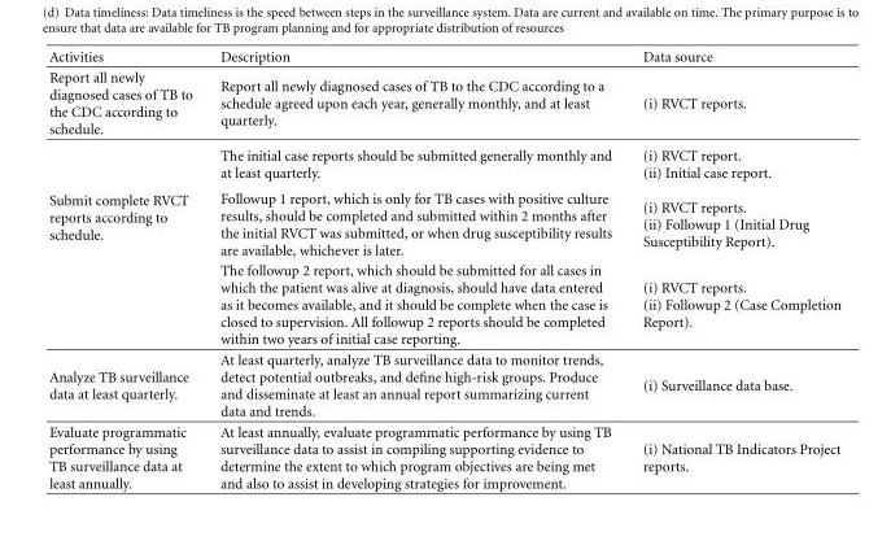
<table><thead><tr><td>Activities</td><td>Description</td><td>Data source</td></tr></thead><tbody><tr><td>Report all newly diagnosed cases of TB to the CDC according to schedule.</td><td>Report all newly diagnosed cases of TB to the CDC according to a schedule agreed upon each year, generally monthly, and at least quarterly.</td><td>(i) RVCT reports.</td></tr><tr><td rowspan="3">Submit complete RVCT reports according to schedule.</td><td>The initial case reports should be submitted generally monthly and at least quarterly.</td><td>(i) RVCT report. (ii) Initial case report.</td></tr><tr><td>Followup 1 report, which is only for TB cases with positive culture results, should be completed and submitted within 2 months after the initial RVCT was submitted, or when drug susceptibility results are available, whichever is later.</td><td>(i) RVCT reports. (ii) Followup 1 (Initial Drug Susceptibility Report).</td></tr><tr><td>The followup 2 report, which should be submitted for all cases in which the patient was alive at diagnosis, should have data entered as it becomes available, and it should be complete when the case is closed to supervision. All followup 2 reports should be completed within two years of initial case reporting.</td><td>(i) RVCT reports. (ii) Followup 2 (Case Completion Report).</td></tr><tr><td>Analyze TB surveillance data at least quarterly.</td><td>At least quarterly, analyze TB surveillance data to monitor trends, detect potential outbreaks, and define high-risk groups. Produce and disseminate at least an annual report summarizing current data and trends.</td><td>(i) Surveillance data base.</td></tr><tr><td>Evaluate programmatic performance by using TB surveillance data at least annually.</td><td>At least annually, evaluate programmatic performance by using TB surveillance data to assist in compiling supporting evidence to determine the extent to which program objectives are being met and also to assist in developing strategies for improvement.</td><td>(i) National TB Indicators Project reports.</td></tr></tbody></table>